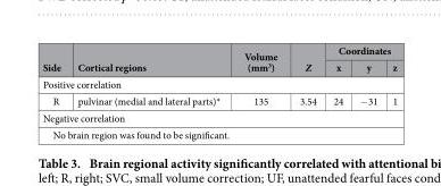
<table><thead><tr><td rowspan="2">Side</td><td rowspan="2">Cortical regions</td><td rowspan="2">Volume (mm<sup>3</sup>)</td><td rowspan="2">Z</td><td colspan="3">Coordinates</td></tr><tr><td>x</td><td>y</td><td>z</td></tr></thead><tbody><tr><td colspan="7">Positive correlation</td></tr><tr><td>R</td><td>pulvinar (medial and lateral parts)*</td><td>135</td><td>3.54</td><td>24</td><td>− 31</td><td>1</td></tr><tr><td colspan="7">Negative correlation</td></tr><tr><td colspan="7">No brain region was found to be significant.</td></tr></tbody></table>